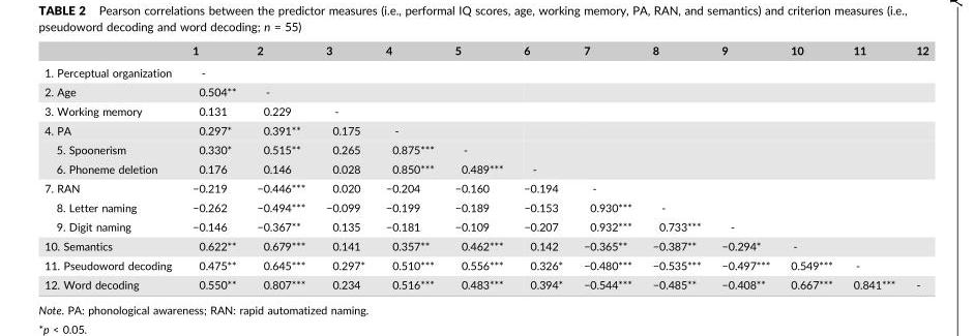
<table><thead><tr><td></td><td>1</td><td>2</td><td>3</td><td>4</td><td>5</td><td>6</td><td>7</td><td>8</td><td>9</td><td>10</td><td>11</td><td>12</td></tr></thead><tbody><tr><td>1. Perceptual organization</td><td>‐</td><td></td><td></td><td></td><td></td><td></td><td></td><td></td><td></td><td></td><td></td><td></td></tr><tr><td>2. Age</td><td>0.504**</td><td>‐</td><td></td><td></td><td></td><td></td><td></td><td></td><td></td><td></td><td></td><td></td></tr><tr><td>3. Working memory</td><td>0.131</td><td>0.229</td><td>‐</td><td></td><td></td><td></td><td></td><td></td><td></td><td></td><td></td><td></td></tr><tr><td>4. PA</td><td>0.297*</td><td>0.391**</td><td>0.175</td><td>‐</td><td></td><td></td><td></td><td></td><td></td><td></td><td></td><td></td></tr><tr><td>5. Spoonerism</td><td>0.330*</td><td>0.515**</td><td>0.265</td><td>0.875***</td><td>‐</td><td></td><td></td><td></td><td></td><td></td><td></td><td></td></tr><tr><td>6. Phoneme deletion</td><td>0.176</td><td>0.146</td><td>0.028</td><td>0.850***</td><td>0.489***</td><td>‐</td><td></td><td></td><td></td><td></td><td></td><td></td></tr><tr><td>7. RAN</td><td>−0.219</td><td>−0.446***</td><td>0.020</td><td>−0.204</td><td>−0.160</td><td>−0.194</td><td>‐</td><td></td><td></td><td></td><td></td><td></td></tr><tr><td>8. Letter naming</td><td>−0.262</td><td>−0.494***</td><td>−0.099</td><td>−0.199</td><td>−0.189</td><td>−0.153</td><td>0.930***</td><td>‐</td><td></td><td></td><td></td><td></td></tr><tr><td>9. Digit naming</td><td>−0.146</td><td>−0.367**</td><td>0.135</td><td>−0.181</td><td>−0.109</td><td>−0.207</td><td>0.932***</td><td>0.733***</td><td>‐</td><td></td><td></td><td></td></tr><tr><td>10. Semantics</td><td>0.622**</td><td>0.679***</td><td>0.141</td><td>0.357**</td><td>0.462***</td><td>0.142</td><td>−0.365**</td><td>−0.387**</td><td>−0.294*</td><td>‐</td><td></td><td></td></tr><tr><td>11. Pseudoword decoding</td><td>0.475**</td><td>0.645***</td><td>0.297*</td><td>0.510***</td><td>0.556***</td><td>0.326*</td><td>−0.480***</td><td>−0.535***</td><td>−0.497***</td><td>0.549***</td><td>‐</td><td></td></tr><tr><td>12. Word decoding</td><td>0.550**</td><td>0.807***</td><td>0.234</td><td>0.516***</td><td>0.483***</td><td>0.394*</td><td>−0.544***</td><td>−0.485**</td><td>−0.408**</td><td>0.667***</td><td>0.841***</td><td>‐</td></tr></tbody></table>